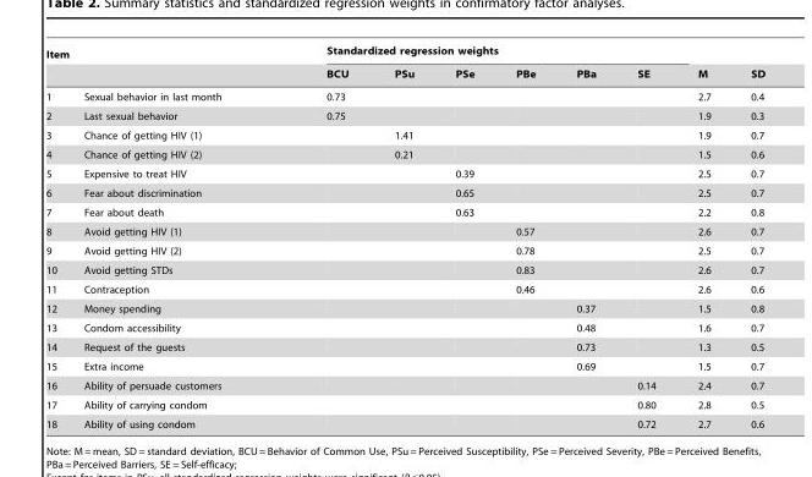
<table><thead><tr><td colspan="2">Item</td><td colspan="6">Standardized regression weights</td><td rowspan="2">M</td><td rowspan="2">SD</td></tr><tr><td></td><td></td><td>BCU</td><td>PSu</td><td>PSe</td><td>PBe</td><td>PBa</td><td>SE</td></tr></thead><tbody><tr><td>1</td><td>Sexual behavior in last month</td><td>0.73</td><td></td><td></td><td></td><td></td><td></td><td>2.7</td><td>0.4</td></tr><tr><td>2</td><td>Last sexual behavior</td><td>0.75</td><td></td><td></td><td></td><td></td><td></td><td>1.9</td><td>0.3</td></tr><tr><td>3</td><td>Chance of getting HIV (1)</td><td></td><td>1.41</td><td></td><td></td><td></td><td></td><td>1.9</td><td>0.7</td></tr><tr><td>4</td><td>Chance of getting HIV (2)</td><td></td><td>0.21</td><td></td><td></td><td></td><td></td><td>1.5</td><td>0.6</td></tr><tr><td>5</td><td>Expensive to treat HIV</td><td></td><td></td><td>0.39</td><td></td><td></td><td></td><td>2.5</td><td>0.7</td></tr><tr><td>6</td><td>Fear about discrimination</td><td></td><td></td><td>0.65</td><td></td><td></td><td></td><td>2.5</td><td>0.7</td></tr><tr><td>7</td><td>Fear about death</td><td></td><td></td><td>0.63</td><td></td><td></td><td></td><td>2.2</td><td>0.8</td></tr><tr><td>8</td><td>Avoid getting HIV (1)</td><td></td><td></td><td></td><td>0.57</td><td></td><td></td><td>2.6</td><td>0.7</td></tr><tr><td>9</td><td>Avoid getting HIV (2)</td><td></td><td></td><td></td><td>0.78</td><td></td><td></td><td>2.5</td><td>0.7</td></tr><tr><td>10</td><td>Avoid getting STDs</td><td></td><td></td><td></td><td>0.83</td><td></td><td></td><td>2.6</td><td>0.7</td></tr><tr><td>11</td><td>Contraception</td><td></td><td></td><td></td><td>0.46</td><td></td><td></td><td>2.6</td><td>0.6</td></tr><tr><td>12</td><td>Money spending</td><td></td><td></td><td></td><td></td><td>0.37</td><td></td><td>1.5</td><td>0.8</td></tr><tr><td>13</td><td>Condom accessibility</td><td></td><td></td><td></td><td></td><td>0.48</td><td></td><td>1.6</td><td>0.7</td></tr><tr><td>14</td><td>Request of the guests</td><td></td><td></td><td></td><td></td><td>0.73</td><td></td><td>1.3</td><td>0.5</td></tr><tr><td>15</td><td>Extra income</td><td></td><td></td><td></td><td></td><td>0.69</td><td></td><td>1.5</td><td>0.7</td></tr><tr><td>16</td><td>Ability of persuade customers</td><td></td><td></td><td></td><td></td><td></td><td>0.14</td><td>2.4</td><td>0.7</td></tr><tr><td>17</td><td>Ability of carrying condom</td><td></td><td></td><td></td><td></td><td></td><td>0.80</td><td>2.8</td><td>0.5</td></tr><tr><td>18</td><td>Ability of using condom</td><td></td><td></td><td></td><td></td><td></td><td>0.72</td><td>2.7</td><td>0.6</td></tr></tbody></table>